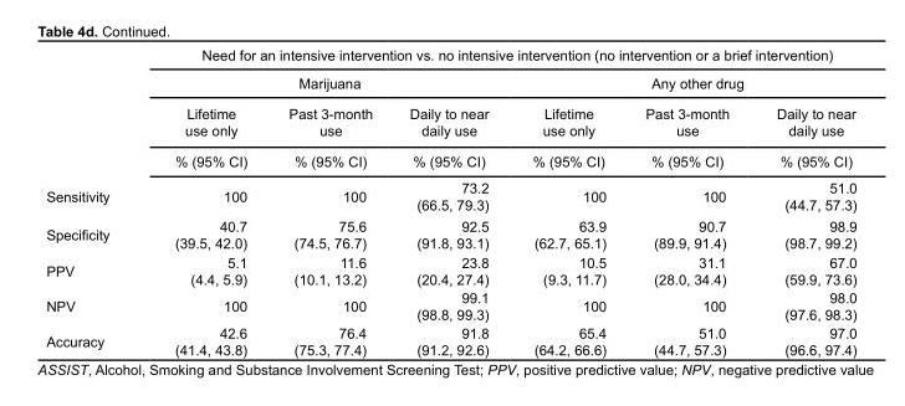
<table><thead><tr><td rowspan="4"></td><td colspan="6">Need for an intensive intervention vs. no intensive intervention (no intervention or a brief intervention)</td></tr><tr><td colspan="3">Marijuana</td><td colspan="3">Any other drug</td></tr><tr><td rowspan="2">Lifetime use only % (95% CI)</td><td rowspan="2">Past 3-month use % (95% CI)</td><td rowspan="2">Daily to near daily use % (95% CI)</td><td rowspan="2">Lifetime use only % (95% CI)</td><td rowspan="2">Past 3-month use % (95% CI)</td><td rowspan="2">Daily to near daily use % (95% CI)</td></tr><tr></tr></thead><tbody><tr><td>Sensitivity</td><td>100</td><td>100</td><td>73.2 (66.5, 79.3)</td><td>100</td><td>100</td><td>51.0 (44.7, 57.3)</td></tr><tr><td>Specificity</td><td>40.7 (39.5, 42.0)</td><td>75.6 (74.5, 76.7)</td><td>92.5 (91.8, 93.1)</td><td>63.9 (62.7, 65.1)</td><td>90.7 (89.9, 91.4)</td><td>98.9 (98.7, 99.2)</td></tr><tr><td>PPV</td><td>5.1 (4.4, 5.9)</td><td>11.6 (10.1, 13.2)</td><td>23.8 (20.4, 27.4)</td><td>10.5 (9.3, 11.7)</td><td>31.1 (28.0, 34.4)</td><td>67.0 (59.9, 73.6)</td></tr><tr><td>NPV</td><td>100</td><td>100</td><td>99.1 (98.8, 99.3)</td><td>100</td><td>100</td><td>98.0 (97.6, 98.3)</td></tr><tr><td>Accuracy</td><td>42.6 (41.4, 43.8)</td><td>76.4 (75.3, 77.4)</td><td>91.8 (91.2, 92.6)</td><td>65.4 (64.2, 66.6)</td><td>51.0 (44.7, 57.3)</td><td>97.0 (96.6, 97.4)</td></tr></tbody></table>